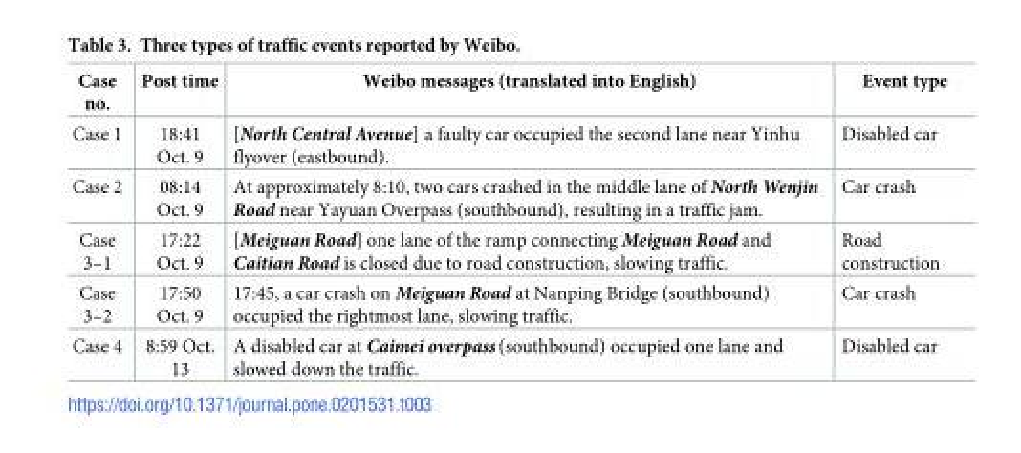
<table><thead><tr><td>Case no.</td><td>Post time</td><td>Weibo messages (translated into English)</td><td>Event type</td></tr></thead><tbody><tr><td>Case 1</td><td>18:41 Oct. 9</td><td>[North Central Avenue] a faulty car occupied the second lane near Yinhu flyover (eastbound).</td><td>Disabled car</td></tr><tr><td>Case 2</td><td>08:14 Oct. 9</td><td>At approximately 8:10, two cars crashed in the middle lane of North Wenjin Road near Yayuan Overpass (southbound), resulting in a traffic jam.</td><td>Car crash</td></tr><tr><td>Case 3–1</td><td>17:22 Oct. 9</td><td>[Meiguan Road] one lane of the ramp connecting Meiguan Road and Caitian Road is closed due to road construction, slowing traffic.</td><td>Road construction</td></tr><tr><td>Case 3–2</td><td>17:50 Oct. 9</td><td>17:45, a car crash on Meiguan Road at Nanping Bridge (southbound) occupied the rightmost lane, slowing traffic.</td><td>Car crash</td></tr><tr><td>Case 4</td><td>8:59 Oct. 13</td><td>A disabled car at Caimei overpass(southbound) occupied one lane and slowed down the traffic.</td><td>Disabled car</td></tr></tbody></table>